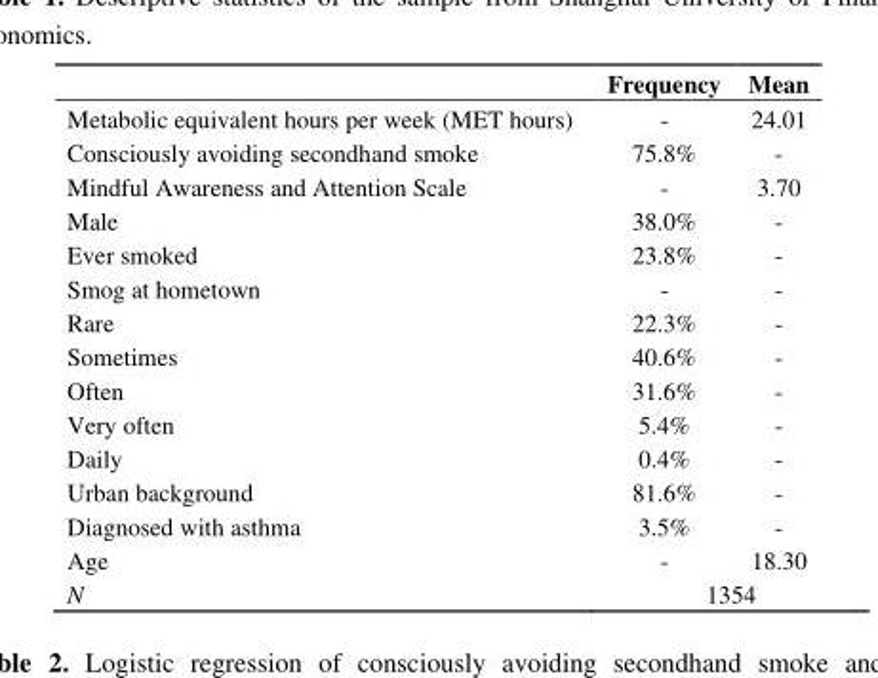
<table><thead><tr><td></td><td>Frequency</td><td>Mean</td></tr></thead><tbody><tr><td>Metabolic equivalent hours per week (MET hours)</td><td>-</td><td>24.01</td></tr><tr><td>Consciously avoiding secondhand smoke</td><td>75.8%</td><td>-</td></tr><tr><td>Mindful Awareness and Attention Scale</td><td>-</td><td>3.70</td></tr><tr><td>Male</td><td>38.0%</td><td>-</td></tr><tr><td>Ever smoked</td><td>23.8%</td><td>-</td></tr><tr><td>Smog at hometown</td><td>-</td><td>-</td></tr><tr><td>Rare</td><td>22.3%</td><td>-</td></tr><tr><td>Sometimes</td><td>40.6%</td><td>-</td></tr><tr><td>Often</td><td>31.6%</td><td>-</td></tr><tr><td>Very often</td><td>5.4%</td><td>-</td></tr><tr><td>Daily</td><td>0.4%</td><td>-</td></tr><tr><td>Urban background</td><td>81.6%</td><td>-</td></tr><tr><td>Diagnosed with asthma</td><td>3.5%</td><td>-</td></tr><tr><td>Age</td><td>-</td><td>18.30</td></tr><tr><td>N</td><td colspan="2">1354</td></tr></tbody></table>